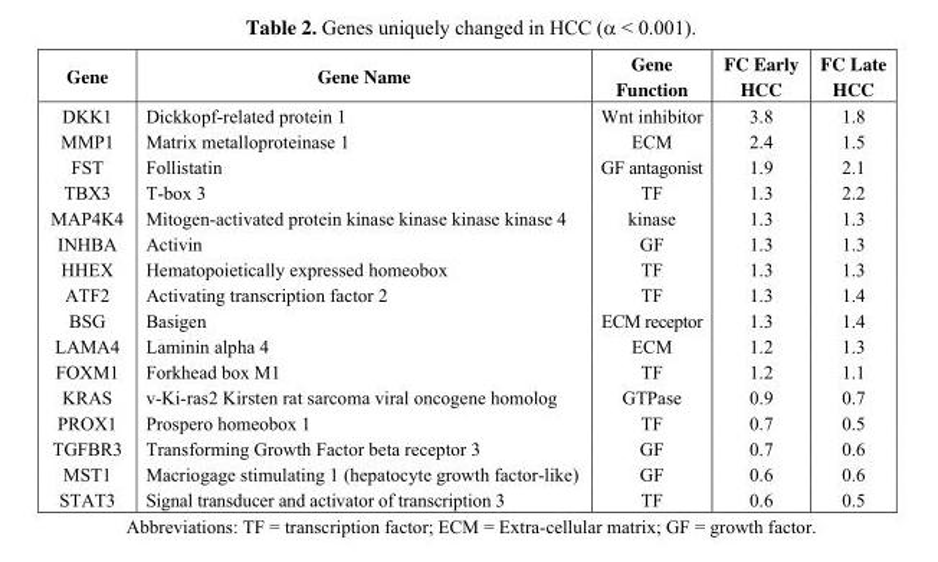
<table><thead><tr><td>Gene</td><td>Gene Name</td><td>Gene Function</td><td>FC Early HCC</td><td>FC Late HCC</td></tr></thead><tbody><tr><td>DKK1</td><td>Dickkopf-related protein 1</td><td>Wnt inhibitor</td><td>3.8</td><td>1.8</td></tr><tr><td>MMP1</td><td>Matrix metalloproteinase 1</td><td>ECM</td><td>2.4</td><td>1.5</td></tr><tr><td>FST</td><td>Follistatin</td><td>GF antagonist</td><td>1.9</td><td>2.1</td></tr><tr><td>TBX3</td><td>T-box 3</td><td>TF</td><td>1.3</td><td>2.2</td></tr><tr><td>MAP4K4</td><td>Mitogen-activated protein kinase kinase kinase kinase 4</td><td>kinase</td><td>1.3</td><td>1.3</td></tr><tr><td>INHBA</td><td>Activin</td><td>GF</td><td>1.3</td><td>1.3</td></tr><tr><td>HHEX</td><td>Hematopoietically expressed homeobox</td><td>TF</td><td>1.3</td><td>1.3</td></tr><tr><td>ATF2</td><td>Activating transcription factor 2</td><td>TF</td><td>1.3</td><td>1.4</td></tr><tr><td>BSG</td><td>Basigen</td><td>ECM receptor</td><td>1.3</td><td>1.4</td></tr><tr><td>LAMA4</td><td>Laminin alpha 4</td><td>ECM</td><td>1.2</td><td>1.3</td></tr><tr><td>FOXM1</td><td>Forkhead box M1</td><td>TF</td><td>1.2</td><td>1.1</td></tr><tr><td>KRAS</td><td>v-Ki-ras2 Kirsten rat sarcoma viral oncogene homolog</td><td>GTPase</td><td>0.9</td><td>0.7</td></tr><tr><td>PROX1</td><td>Prospero homeobox 1</td><td>TF</td><td>0.7</td><td>0.5</td></tr><tr><td>TGFBR3</td><td>Transforming Growth Factor beta receptor 3</td><td>GF</td><td>0.7</td><td>0.6</td></tr><tr><td>MST1</td><td>Macriogage stimulating 1 (hepatocyte growth factor-like)</td><td>GF</td><td>0.6</td><td>0.6</td></tr><tr><td>STAT3</td><td>Signal transducer and activator of transcription 3</td><td>TF</td><td>0.6</td><td>0.5</td></tr></tbody></table>